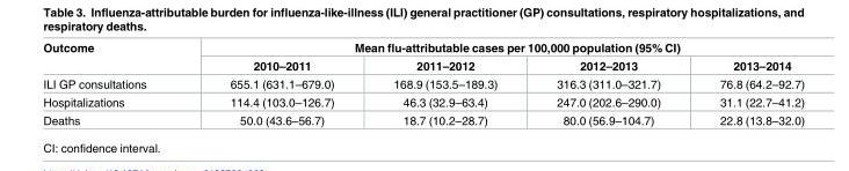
<table><thead><tr><td rowspan="2">Outcome</td><td colspan="4">Mean flu-attributable cases per 100,000 population (95% CI)</td></tr><tr><td>2010–2011</td><td>2011–2012</td><td>2012–2013</td><td>2013–2014</td></tr></thead><tbody><tr><td>ILI GP consultations</td><td>655.1 (631.1–679.0)</td><td>168.9 (153.5–189.3)</td><td>316.3 (311.0–321.7)</td><td>76.8 (64.2–92.7)</td></tr><tr><td>Hospitalizations</td><td>114.4 (103.0–126.7)</td><td>46.3 (32.9–63.4)</td><td>247.0 (202.6–290.0)</td><td>31.1 (22.7–41.2)</td></tr><tr><td>Deaths</td><td>50.0 (43.6–56.7)</td><td>18.7 (10.2–28.7)</td><td>80.0 (56.9–104.7)</td><td>22.8 (13.8–32.0)</td></tr></tbody></table>